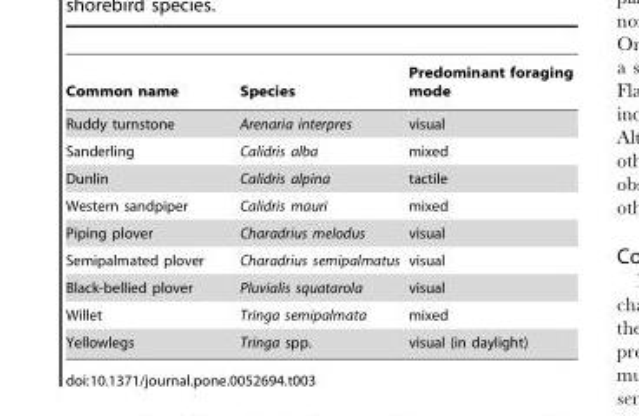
<table><thead><tr><td>Common name</td><td>Species</td><td>Predominant foraging mode</td></tr></thead><tbody><tr><td>Ruddy turnstone</td><td>Arenaria interpres</td><td>visual</td></tr><tr><td>Sanderling</td><td>Calidris alba</td><td>mixed</td></tr><tr><td>Dunlin</td><td>Calidris alpina</td><td>tactile</td></tr><tr><td>Western sandpiper</td><td>Calidris mauri</td><td>mixed</td></tr><tr><td>Piping plover</td><td>Charadrius melodus</td><td>visual</td></tr><tr><td>Semipalmated plover</td><td>Charadrius semipalmatus</td><td>visual</td></tr><tr><td>Black-bellied plover</td><td>Pluvialis squatarola</td><td>visual</td></tr><tr><td>Willet</td><td>Tringa semipalmata</td><td>mixed</td></tr><tr><td>Yellowlegs</td><td>Tringa spp.</td><td>visual (in daylight)</td></tr></tbody></table>